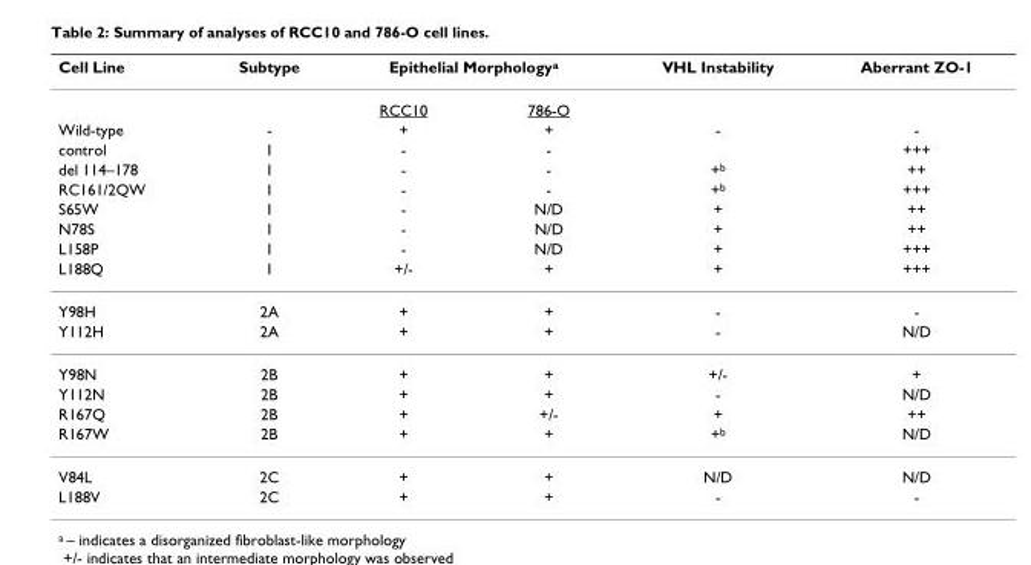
<table><thead><tr><td rowspan="2">Cell Line</td><td rowspan="2">Subtype</td><td colspan="2">Epithelial Morphology<sup>a</sup></td><td rowspan="2">VHL Instability</td><td rowspan="2">Aberrant ZO-1</td></tr><tr><td>RCC10</td><td>786-O</td></tr></thead><tbody><tr><td>Wild-type</td><td>-</td><td>+</td><td>+</td><td>-</td><td>-</td></tr><tr><td>control</td><td>1</td><td>-</td><td>-</td><td></td><td>+++</td></tr><tr><td>del 114–178</td><td>1</td><td>-</td><td>-</td><td>+<sup>b</sup></td><td>++</td></tr><tr><td>RC161/2QW</td><td>1</td><td>-</td><td>-</td><td>+<sup>b</sup></td><td>+++</td></tr><tr><td>S65W</td><td>1</td><td>-</td><td>N/D</td><td>+</td><td>++</td></tr><tr><td>N78S</td><td>1</td><td>-</td><td>N/D</td><td>+</td><td>++</td></tr><tr><td>L158P</td><td>1</td><td>-</td><td>N/D</td><td>+</td><td>+++</td></tr><tr><td>L188Q</td><td>1</td><td>+/-</td><td>+</td><td>+</td><td>+++</td></tr><tr><td>Y98H</td><td>2A</td><td>+</td><td>+</td><td>-</td><td>-</td></tr><tr><td>Y112H</td><td>2A</td><td>+</td><td>+</td><td>-</td><td>N/D</td></tr><tr><td>Y98N</td><td>2B</td><td>+</td><td>+</td><td>+/-</td><td>+</td></tr><tr><td>Y112N</td><td>2B</td><td>+</td><td>+</td><td>-</td><td>N/D</td></tr><tr><td>R167Q</td><td>2B</td><td>+</td><td>+/-</td><td>+</td><td>++</td></tr><tr><td>R167W</td><td>2B</td><td>+</td><td>+</td><td>+<sup>b</sup></td><td>N/D</td></tr><tr><td>V84L</td><td>2C</td><td>+</td><td>+</td><td>N/D</td><td>N/D</td></tr><tr><td>L188V</td><td>2C</td><td>+</td><td>+</td><td>-</td><td>-</td></tr></tbody></table>